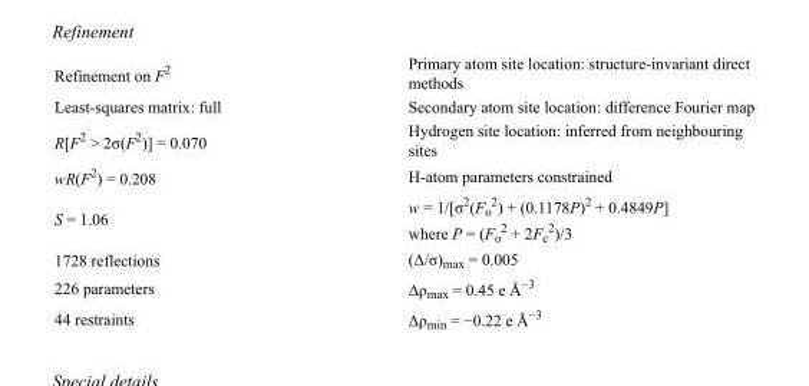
<table><tbody><tr><td>Refinement on F<sup>2</sup></td><td>Primary atom site location: structure-invariant direct methods</td></tr><tr><td>Least-squares matrix: full</td><td>Secondary atom site location: difference Fourier map</td></tr><tr><td>R[F<sup>2</sup> &gt; 2σ(F<sup>2</sup>)] = 0.070</td><td>Hydrogen site location: inferred from neighbouring sites</td></tr><tr><td>wR(F<sup>2</sup>) = 0.208</td><td>H-atom parameters constrained</td></tr><tr><td>S = 1.06</td><td>w = 1/[σ<sup>2</sup>(F<sub>o</sub> <sup>2</sup>) + (0.1178P)<sup>2</sup> + 0.4849P] where P = (F<sub>o</sub> <sup>2</sup> + 2F<sub>c</sub> <sup>2</sup>)/3</td></tr><tr><td>1728 reflections</td><td>(Δ/σ)<sub>max</sub> = 0.005</td></tr><tr><td>226 parameters</td><td>Δρ<sub>max</sub> = 0.45 e Å<sup>−3</sup></td></tr><tr><td>44 restraints</td><td>Δρ<sub>min</sub> = −0.22 e Å<sup>−3</sup></td></tr></tbody></table>